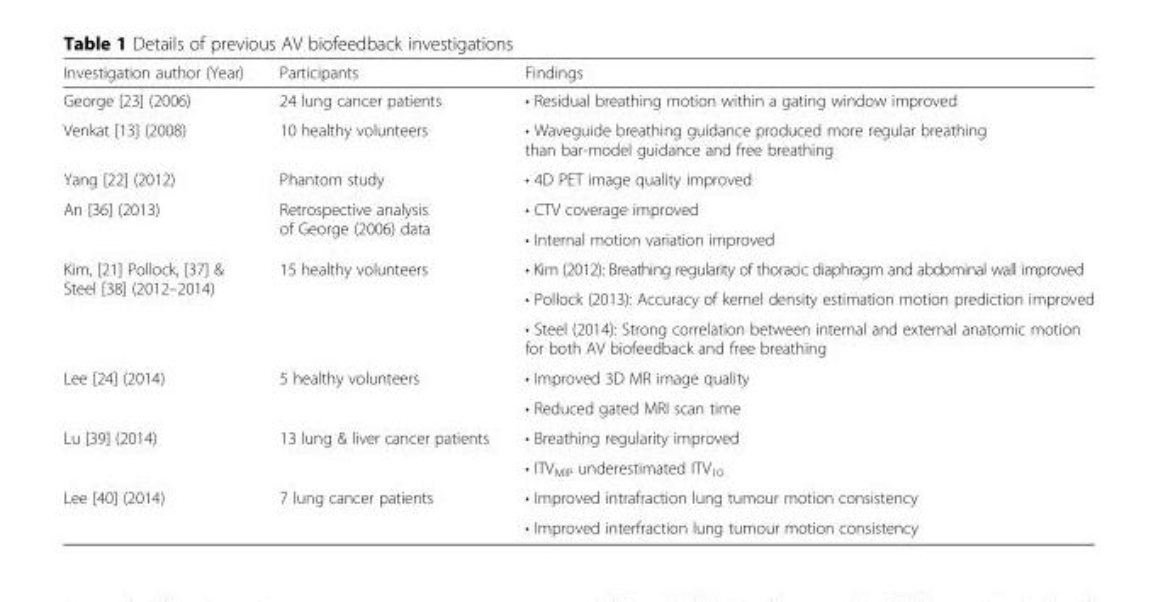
<table><thead><tr><td>Investigation author (Year)</td><td>Participants</td><td>Findings</td></tr></thead><tbody><tr><td>George [23] (2006)</td><td>24 lung cancer patients</td><td>• Residual breathing motion within a gating window improved</td></tr><tr><td>Venkat [13] (2008)</td><td>10 healthy volunteers</td><td>• Waveguide breathing guidance produced more regular breathing than bar-model guidance and free breathing</td></tr><tr><td>Yang [22] (2012)</td><td>Phantom study</td><td>• 4D PET image quality improved</td></tr><tr><td rowspan="2">An [36] (2013)</td><td rowspan="2">Retrospective analysis of George (2006) data</td><td>• CTV coverage improved</td></tr><tr><td>• Internal motion variation improved</td></tr><tr><td rowspan="3">Kim, [21] Pollock, [37] &amp; Steel [38] (2012–2014)</td><td rowspan="3">15 healthy volunteers</td><td>• Kim (2012): Breathing regularity of thoracic diaphragm and abdominal wall improved</td></tr><tr><td>• Pollock (2013): Accuracy of kernel density estimation motion prediction improved</td></tr><tr><td>• Steel (2014): Strong correlation between internal and external anatomic motion for both AV biofeedback and free breathing</td></tr><tr><td rowspan="2">Lee [24] (2014)</td><td rowspan="2">5 healthy volunteers</td><td>• Improved 3D MR image quality</td></tr><tr><td>• Reduced gated MRI scan time</td></tr><tr><td rowspan="2">Lu [39] (2014)</td><td rowspan="2">13 lung &amp; liver cancer patients</td><td>• Breathing regularity improved</td></tr><tr><td>• ITV<sub>MIP</sub> underestimated ITV<sub>10</sub></td></tr><tr><td rowspan="2">Lee [40] (2014)</td><td rowspan="2">7 lung cancer patients</td><td>• Improved intrafraction lung tumour motion consistency</td></tr><tr><td>• Improved interfraction lung tumour motion consistency</td></tr></tbody></table>